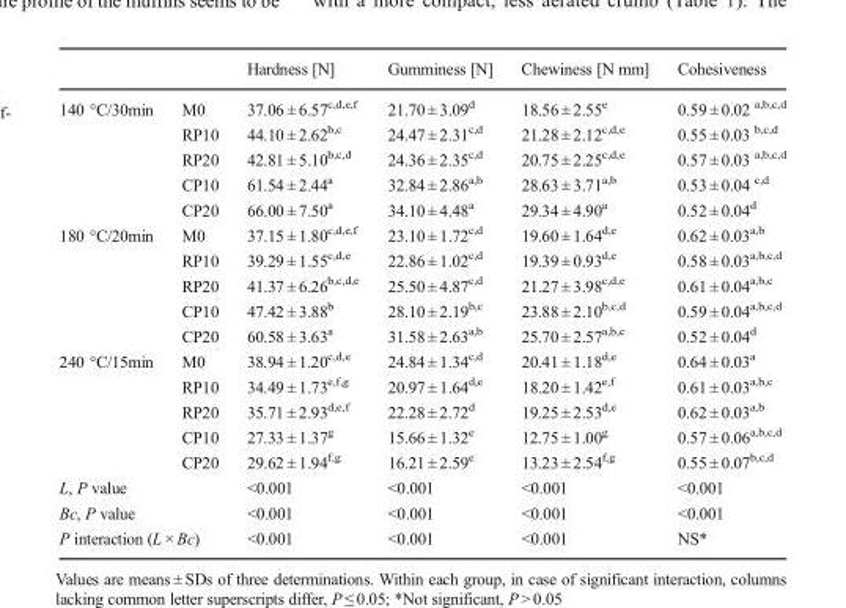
<table><thead><tr><td></td><td></td><td>Hardness [N]</td><td>Gumminess [N]</td><td>Chewiness [N mm]</td><td>Cohesiveness</td></tr></thead><tbody><tr><td rowspan="5">140 °C/30min</td><td>M0</td><td>37.06 ± 6.57<sup>c,d,e,f</sup></td><td>21.70 ± 3.09<sup>d</sup></td><td>18.56 ± 2.55<sup>e</sup></td><td>0.59 ± 0.02 <sup>a,b,c,d</sup></td></tr><tr><td>RP10</td><td>44.10 ± 2.62<sup>b,c</sup></td><td>24.47 ± 2.31<sup>c,d</sup></td><td>21.28 ± 2.12<sup>c,d,e</sup></td><td>0.55 ± 0.03 <sup>b,c,d</sup></td></tr><tr><td>RP20</td><td>42.81 ± 5.10<sup>b,c,d</sup></td><td>24.36 ± 2.35<sup>c,d</sup></td><td>20.75 ± 2.25<sup>c,d,e</sup></td><td>0.57 ± 0.03 <sup>a,b,c,d</sup></td></tr><tr><td>CP10</td><td>61.54 ± 2.44<sup>a</sup></td><td>32.84 ± 2.86<sup>a,b</sup></td><td>28.63 ± 3.71<sup>a,b</sup></td><td>0.53 ± 0.04 <sup>c,d</sup></td></tr><tr><td>CP20</td><td>66.00 ± 7.50<sup>a</sup></td><td>34.10 ± 4.48<sup>a</sup></td><td>29.34 ± 4.90<sup>a</sup></td><td>0.52 ± 0.04<sup>d</sup></td></tr><tr><td rowspan="5">180 °C/20min</td><td>M0</td><td>37.15 ± 1.80<sup>c,d,e,f</sup></td><td>23.10 ± 1.72<sup>c,d</sup></td><td>19.60 ± 1.64<sup>d,e</sup></td><td>0.62 ± 0.03<sup>a,b</sup></td></tr><tr><td>RP10</td><td>39.29 ± 1.55<sup>c,d,e</sup></td><td>22.86 ± 1.02<sup>c,d</sup></td><td>19.39 ± 0.93<sup>d,e</sup></td><td>0.58 ± 0.03<sup>a,b,c,d</sup></td></tr><tr><td>RP20</td><td>41.37 ± 6.26<sup>b,c,d,e</sup></td><td>25.50 ± 4.87<sup>c,d</sup></td><td>21.27 ± 3.98<sup>c,d,e</sup></td><td>0.61 ± 0.04<sup>a,b,c</sup></td></tr><tr><td>CP10</td><td>47.42 ± 3.88<sup>b</sup></td><td>28.10 ± 2.19<sup>b,c</sup></td><td>23.88 ± 2.10<sup>b,c,d</sup></td><td>0.59 ± 0.04<sup>a,b,c,d</sup></td></tr><tr><td>CP20</td><td>60.58 ± 3.63<sup>a</sup></td><td>31.58 ± 2.63<sup>a,b</sup></td><td>25.70 ± 2.57<sup>a,b,c</sup></td><td>0.52 ± 0.04<sup>d</sup></td></tr><tr><td rowspan="5">240 °C/15min</td><td>M0</td><td>38.94 ± 1.20<sup>c,d,e</sup></td><td>24.84 ± 1.34<sup>c,d</sup></td><td>20.41 ± 1.18<sup>d,e</sup></td><td>0.64 ± 0.03<sup>a</sup></td></tr><tr><td>RP10</td><td>34.49 ± 1.73<sup>e,f,g</sup></td><td>20.97 ± 1.64<sup>d,e</sup></td><td>18.20 ± 1.42<sup>e,f</sup></td><td>0.61 ± 0.03<sup>a,b,c</sup></td></tr><tr><td>RP20</td><td>35.71 ± 2.93<sup>d,e,f</sup></td><td>22.28 ± 2.72<sup>d</sup></td><td>19.25 ± 2.53<sup>d,e</sup></td><td>0.62 ± 0.03<sup>a,b</sup></td></tr><tr><td>CP10</td><td>27.33 ± 1.37<sup>g</sup></td><td>15.66 ± 1.32<sup>e</sup></td><td>12.75 ± 1.00<sup>g</sup></td><td>0.57 ± 0.06<sup>a,b,c,d</sup></td></tr><tr><td>CP20</td><td>29.62 ± 1.94<sup>f,g</sup></td><td>16.21 ± 2.59<sup>e</sup></td><td>13.23 ± 2.54<sup>f,g</sup></td><td>0.55 ± 0.07<sup>b,c,d</sup></td></tr><tr><td colspan="2">L, P value</td><td>&lt;0.001</td><td>&lt;0.001</td><td>&lt;0.001</td><td>&lt;0.001</td></tr><tr><td colspan="2">Bc, P value</td><td>&lt;0.001</td><td>&lt;0.001</td><td>&lt;0.001</td><td>&lt;0.001</td></tr><tr><td colspan="2">P interaction (L × Bc)</td><td>&lt;0.001</td><td>&lt;0.001</td><td>&lt;0.001</td><td>NS*</td></tr></tbody></table>